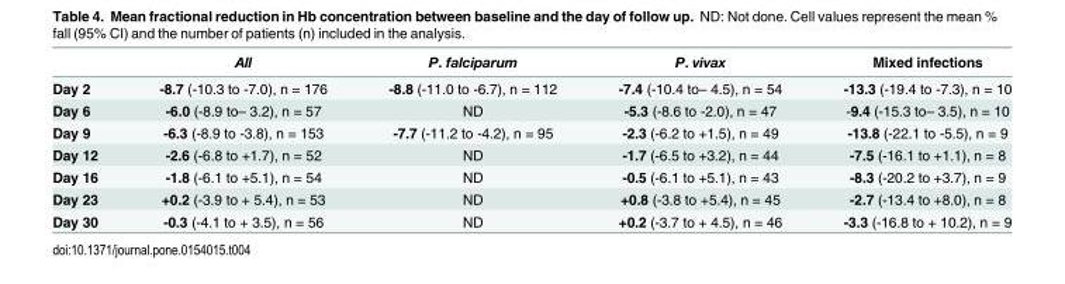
<table><thead><tr><td></td><td>All</td><td>P. falciparum</td><td>P. vivax</td><td>Mixed infections</td></tr></thead><tbody><tr><td>Day 2</td><td>-8.7 (-10.3 to -7.0), n = 176</td><td>-8.8 (-11.0 to -6.7), n = 112</td><td>-7.4 (-10.4 to– 4.5), n = 54</td><td>-13.3 (-19.4 to -7.3), n = 10</td></tr><tr><td>Day 6</td><td>-6.0 (-8.9 to– 3.2), n = 57</td><td>ND</td><td>-5.3 (-8.6 to -2.0), n = 47</td><td>-9.4 (-15.3 to– 3.5), n = 10</td></tr><tr><td>Day 9</td><td>-6.3 (-8.9 to -3.8), n = 153</td><td>-7.7 (-11.2 to -4.2), n = 95</td><td>-2.3 (-6.2 to +1.5), n = 49</td><td>-13.8 (-22.1 to -5.5), n = 9</td></tr><tr><td>Day 12</td><td>-2.6 (-6.8 to +1.7), n = 52</td><td>ND</td><td>-1.7 (-6.5 to +3.2), n = 44</td><td>-7.5 (-16.1 to +1.1), n = 8</td></tr><tr><td>Day 16</td><td>-1.8 (-6.1 to +5.1), n = 54</td><td>ND</td><td>-0.5 (-6.1 to +5.1), n = 43</td><td>-8.3 (-20.2 to +3.7), n = 9</td></tr><tr><td>Day 23</td><td>+0.2 (-3.9 to + 5.4), n = 53</td><td>ND</td><td>+0.8 (-3.8 to +5.4), n = 45</td><td>-2.7 (-13.4 to +8.0), n = 8</td></tr><tr><td>Day 30</td><td>-0.3 (-4.1 to + 3.5), n = 56</td><td>ND</td><td>+0.2 (-3.7 to + 4.5), n = 46</td><td>-3.3 (-16.8 to + 10.2), n = 9</td></tr></tbody></table>